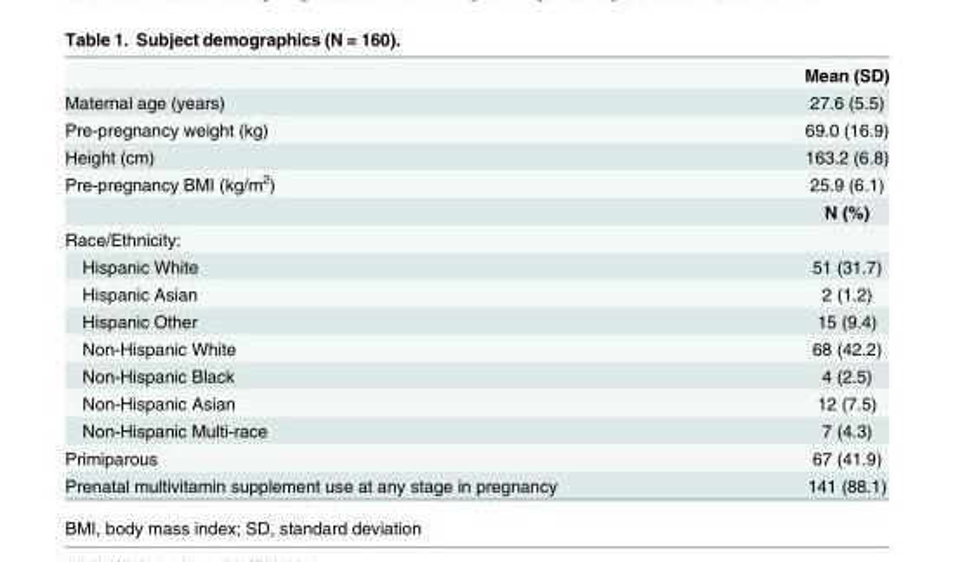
<table><thead><tr><td></td><td>Mean (SD)</td></tr></thead><tbody><tr><td>Maternal age (years)</td><td>27.6 (5.5)</td></tr><tr><td>Pre-pregnancy weight (kg)</td><td>69.0 (16.9)</td></tr><tr><td>Height (cm)</td><td>163.2 (6.8)</td></tr><tr><td rowspan="2">Pre-pregnancy BMI (kg/m<sup>2</sup>)</td><td>25.9 (6.1)</td></tr><tr><td>N (%)</td></tr><tr><td colspan="2">Race/Ethnicity:</td></tr><tr><td>Hispanic White</td><td>51 (31.7)</td></tr><tr><td>Hispanic Asian</td><td>2 (1.2)</td></tr><tr><td>Hispanic Other</td><td>15 (9.4)</td></tr><tr><td>Non-Hispanic White</td><td>68 (42.2)</td></tr><tr><td>Non-Hispanic Black</td><td>4 (2.5)</td></tr><tr><td>Non-Hispanic Asian</td><td>12 (7.5)</td></tr><tr><td>Non-Hispanic Multi-race</td><td>7 (4.3)</td></tr><tr><td>Primiparous</td><td>67 (41.9)</td></tr><tr><td>Prenatal multivitamin supplement use at any stage in pregnancy</td><td>141 (88.1)</td></tr></tbody></table>